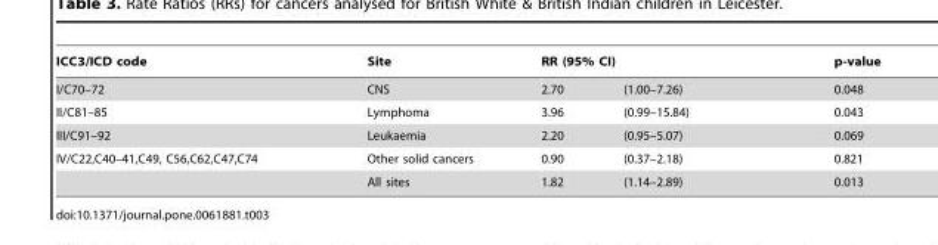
<table><thead><tr><td rowspan="2">ICC3/ICD code I/C70–72</td><td rowspan="2">Site CNS</td><td colspan="2">RR (95% CI)</td><td rowspan="2">p-value 0.048</td></tr><tr><td>2.70</td><td>(1.00–7.26)</td></tr></thead><tbody><tr><td>II/C81–85</td><td>Lymphoma</td><td>3.96</td><td>(0.99–15.84)</td><td>0.043</td></tr><tr><td>III/C91–92</td><td>Leukaemia</td><td>2.20</td><td>(0.95–5.07)</td><td>0.069</td></tr><tr><td rowspan="2">IV/C22,C40–41,C49, C56,C62,C47,C74</td><td>Other solid cancers</td><td>0.90</td><td>(0.37–2.18)</td><td>0.821</td></tr><tr><td>All sites</td><td>1.82</td><td>(1.14–2.89)</td><td>0.013</td></tr></tbody></table>